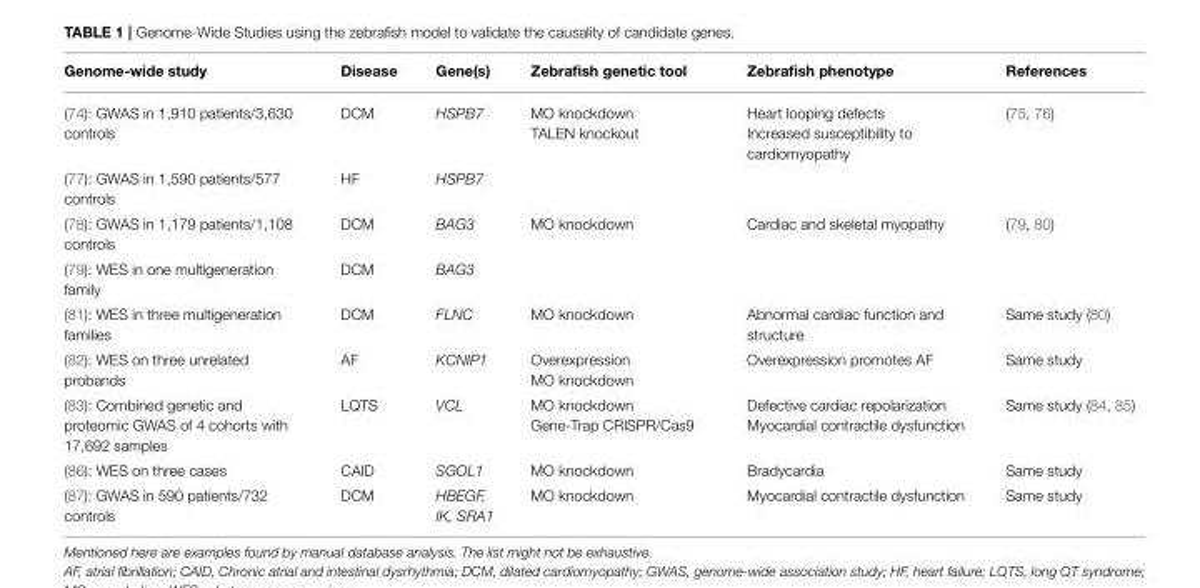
<table><thead><tr><td>Genome-wide study</td><td>Disease</td><td>Gene(s)</td><td>Zebrafish genetic tool</td><td>Zebrafish phenotype</td><td>References</td></tr></thead><tbody><tr><td>(74): GWAS in 1,910 patients/3,630 controls</td><td>DCM</td><td>HSPB7</td><td>MO knockdown TALEN knockout</td><td>Heart looping defects Increased susceptibility to cardiomyopathy</td><td>(75, 76)</td></tr><tr><td>(77): GWAS in 1,590 patients/577 controls</td><td>HF</td><td>HSPB7</td><td></td><td></td><td></td></tr><tr><td>(78): GWAS in 1,179 patients/1,108 controls</td><td>DCM</td><td>BAG3</td><td>MO knockdown</td><td>Cardiac and skeletal myopathy</td><td>(79, 80)</td></tr><tr><td>(79): WES in one multigeneration family</td><td>DCM</td><td>BAG3</td><td></td><td></td><td></td></tr><tr><td>(81): WES in three multigeneration families</td><td>DCM</td><td>FLNC</td><td>MO knockdown</td><td>Abnormal cardiac function and structure</td><td>Same study (80)</td></tr><tr><td>(82): WES on three unrelated probands</td><td>AF</td><td>KCNIP1</td><td>Overexpression MO knockdown</td><td>Overexpression promotes AF</td><td>Same study</td></tr><tr><td>(83): Combined genetic and proteomic GWAS of 4 cohorts with 17,692 samples</td><td>LQTS</td><td>VCL</td><td>MO knockdown Gene-Trap CRISPR/Cas9</td><td>Defective cardiac repolarization Myocardial contractile dysfunction</td><td>Same study (84, 85)</td></tr><tr><td>(86): WES on three cases</td><td>CAID</td><td>SGOL1</td><td>MO knockdown</td><td>Bradycardia</td><td>Same study</td></tr><tr><td>(87): GWAS in 590 patients/732 controls</td><td>DCM</td><td>HBEGF, IK, SRA1</td><td>MO knockdown</td><td>Myocardial contractile dysfunction</td><td>Same study</td></tr></tbody></table>